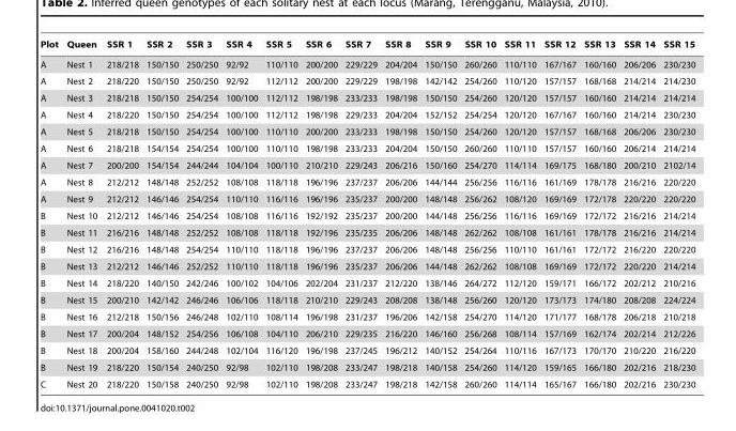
<table><thead><tr><td>Plot</td><td>Queen</td><td>SSR 1</td><td>SSR 2</td><td>SSR 3</td><td>SSR 4</td><td>SSR 5</td><td>SSR 6</td><td>SSR 7</td><td>SSR 8</td><td>SSR 9</td><td>SSR 10</td><td>SSR 11</td><td>SSR 12</td><td>SSR 13</td><td>SSR 14</td><td>SSR 15</td></tr></thead><tbody><tr><td>A</td><td>Nest 1</td><td>218/218</td><td>150/150</td><td>250/250</td><td>92/92</td><td>110/110</td><td>200/200</td><td>229/229</td><td>204/204</td><td>150/150</td><td>260/260</td><td>110/110</td><td>167/167</td><td>160/160</td><td>206/206</td><td>230/230</td></tr><tr><td>A</td><td>Nest 2</td><td>218/220</td><td>150/150</td><td>250/250</td><td>92/92</td><td>112/112</td><td>200/200</td><td>229/229</td><td>198/198</td><td>142/142</td><td>254/260</td><td>110/120</td><td>157/157</td><td>168/168</td><td>214/214</td><td>214/230</td></tr><tr><td>A</td><td>Nest 3</td><td>218/218</td><td>150/150</td><td>254/254</td><td>100/100</td><td>112/112</td><td>198/198</td><td>233/233</td><td>198/198</td><td>150/150</td><td>254/260</td><td>120/120</td><td>157/157</td><td>160/160</td><td>214/214</td><td>214/214</td></tr><tr><td>A</td><td>Nest 4</td><td>218/220</td><td>150/150</td><td>254/254</td><td>100/100</td><td>112/112</td><td>198/198</td><td>229/233</td><td>204/204</td><td>152/152</td><td>254/254</td><td>120/120</td><td>167/167</td><td>160/160</td><td>214/214</td><td>230/230</td></tr><tr><td>A</td><td>Nest 5</td><td>218/218</td><td>150/150</td><td>254/254</td><td>100/100</td><td>110/110</td><td>200/200</td><td>233/233</td><td>198/198</td><td>150/150</td><td>254/260</td><td>120/120</td><td>157/157</td><td>168/168</td><td>206/206</td><td>230/230</td></tr><tr><td>A</td><td>Nest 6</td><td>218/218</td><td>154/154</td><td>254/254</td><td>100/100</td><td>110/110</td><td>198/198</td><td>233/233</td><td>204/204</td><td>150/150</td><td>260/260</td><td>110/110</td><td>157/157</td><td>160/160</td><td>206/214</td><td>214/214</td></tr><tr><td>A</td><td>Nest 7</td><td>200/200</td><td>154/154</td><td>244/244</td><td>104/104</td><td>100/110</td><td>210/210</td><td>229/243</td><td>206/216</td><td>150/160</td><td>254/270</td><td>114/114</td><td>169/175</td><td>168/180</td><td>200/210</td><td>2102/14</td></tr><tr><td>A</td><td>Nest 8</td><td>212/212</td><td>148/148</td><td>252/252</td><td>108/108</td><td>118/118</td><td>196/196</td><td>237/237</td><td>206/206</td><td>144/144</td><td>256/256</td><td>116/116</td><td>161/169</td><td>178/178</td><td>216/216</td><td>220/220</td></tr><tr><td>A</td><td>Nest 9</td><td>212/212</td><td>146/146</td><td>254/254</td><td>110/110</td><td>116/116</td><td>196/196</td><td>235/237</td><td>200/200</td><td>148/148</td><td>256/262</td><td>108/120</td><td>169/169</td><td>172/178</td><td>220/220</td><td>220/220</td></tr><tr><td>B</td><td>Nest 10</td><td>212/212</td><td>146/146</td><td>254/254</td><td>108/108</td><td>116/116</td><td>192/192</td><td>235/237</td><td>200/200</td><td>144/148</td><td>256/256</td><td>116/116</td><td>169/169</td><td>172/172</td><td>216/216</td><td>214/214</td></tr><tr><td>B</td><td>Nest 11</td><td>216/216</td><td>148/148</td><td>252/252</td><td>108/108</td><td>118/118</td><td>192/196</td><td>235/235</td><td>206/206</td><td>148/148</td><td>262/262</td><td>108/108</td><td>161/161</td><td>178/178</td><td>216/216</td><td>214/214</td></tr><tr><td>B</td><td>Nest 12</td><td>216/216</td><td>148/148</td><td>254/254</td><td>110/110</td><td>118/118</td><td>196/196</td><td>237/237</td><td>206/206</td><td>148/148</td><td>256/256</td><td>110/110</td><td>161/161</td><td>172/172</td><td>216/220</td><td>220/220</td></tr><tr><td>B</td><td>Nest 13</td><td>212/212</td><td>146/146</td><td>252/252</td><td>110/110</td><td>118/118</td><td>196/196</td><td>235/237</td><td>206/206</td><td>144/148</td><td>262/262</td><td>108/108</td><td>169/169</td><td>172/172</td><td>220/220</td><td>214/214</td></tr><tr><td>B</td><td>Nest 14</td><td>218/220</td><td>140/150</td><td>242/246</td><td>100/102</td><td>104/106</td><td>202/204</td><td>231/237</td><td>212/220</td><td>138/146</td><td>264/272</td><td>112/120</td><td>159/171</td><td>166/172</td><td>202/212</td><td>210/216</td></tr><tr><td>B</td><td>Nest 15</td><td>200/210</td><td>142/142</td><td>246/246</td><td>106/106</td><td>118/118</td><td>210/210</td><td>229/243</td><td>208/208</td><td>138/148</td><td>256/260</td><td>120/120</td><td>173/173</td><td>174/180</td><td>208/208</td><td>224/224</td></tr><tr><td>B</td><td>Nest 16</td><td>212/218</td><td>150/156</td><td>246/248</td><td>102/110</td><td>108/114</td><td>196/198</td><td>231/237</td><td>196/206</td><td>142/158</td><td>254/270</td><td>114/120</td><td>171/177</td><td>168/178</td><td>206/218</td><td>210/218</td></tr><tr><td>B</td><td>Nest 17</td><td>200/204</td><td>148/152</td><td>254/256</td><td>106/108</td><td>104/110</td><td>206/210</td><td>229/235</td><td>216/220</td><td>146/160</td><td>256/268</td><td>108/114</td><td>157/169</td><td>162/174</td><td>202/214</td><td>212/226</td></tr><tr><td>B</td><td>Nest 18</td><td>200/204</td><td>158/160</td><td>244/248</td><td>102/104</td><td>116/120</td><td>196/198</td><td>237/245</td><td>196/212</td><td>140/152</td><td>254/264</td><td>110/116</td><td>167/173</td><td>170/170</td><td>210/220</td><td>216/220</td></tr><tr><td>B</td><td>Nest 19</td><td>218/220</td><td>150/154</td><td>240/250</td><td>92/98</td><td>102/110</td><td>198/208</td><td>233/247</td><td>198/218</td><td>140/158</td><td>254/260</td><td>114/120</td><td>159/165</td><td>166/180</td><td>202/216</td><td>218/230</td></tr><tr><td>C</td><td>Nest 20</td><td>218/220</td><td>150/158</td><td>240/250</td><td>92/98</td><td>102/110</td><td>198/208</td><td>233/247</td><td>198/218</td><td>142/158</td><td>260/260</td><td>114/114</td><td>165/167</td><td>166/180</td><td>202/216</td><td>230/230</td></tr></tbody></table>